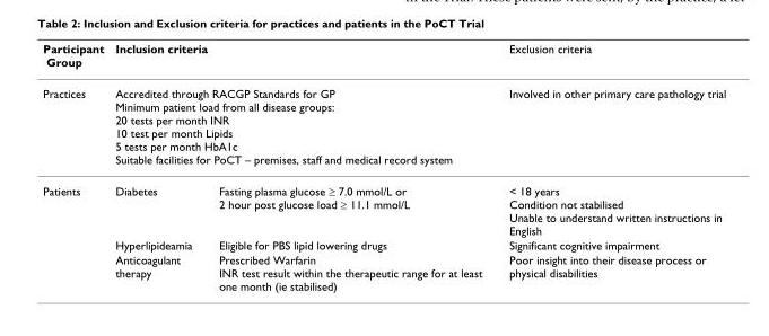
<table><thead><tr><td>Participant Group</td><td>Inclusion criteria</td><td></td><td>Exclusion criteria</td></tr></thead><tbody><tr><td>Practices</td><td colspan="2">Accredited through RACGP Standards for GP Minimum patient load from all disease groups: 20 tests per month INR 10 test per month Lipids 5 tests per month HbA1c Suitable facilities for PoCT – premises, staff and medical record system</td><td>Involved in other primary care pathology trial</td></tr><tr><td rowspan="3">Patients</td><td>Diabetes</td><td>Fasting plasma glucose ≥ 7.0 mmol/L or 2 hour post glucose load ≥ 11.1 mmol/L</td><td>&lt; 18 years Condition not stabilised Unable to understand written instructions in English</td></tr><tr><td>Hyperlipideamia</td><td>Eligible for PBS lipid lowering drugs</td><td>Significant cognitive impairment</td></tr><tr><td>Anticoagulant therapy</td><td>Prescribed Warfarin INR test result within the therapeutic range for at least one month (ie stabilised)</td><td>Poor insight into their disease process or physical disabilities</td></tr></tbody></table>